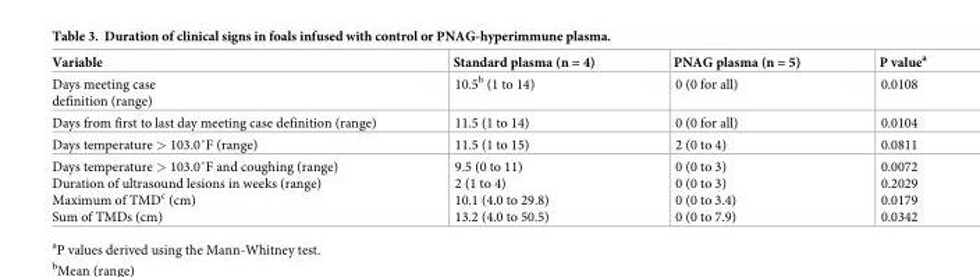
<table><thead><tr><td>Variable</td><td>Standard plasma (n = 4)</td><td>PNAG plasma (n = 5)</td><td>P value<sup>a</sup></td></tr></thead><tbody><tr><td>Days meeting case definition (range)</td><td>10.5<sup>b</sup> (1 to 14)</td><td>0 (0 for all)</td><td>0.0108</td></tr><tr><td>Days from first to last day meeting case definition (range)</td><td>11.5 (1 to 14)</td><td>0 (0 for all)</td><td>0.0104</td></tr><tr><td>Days temperature &gt; 103.0˚F (range)</td><td>11.5 (1 to 15)</td><td>2 (0 to 4)</td><td>0.0811</td></tr><tr><td>Days temperature &gt; 103.0˚F and coughing (range) Duration of ultrasound lesions in weeks (range) Maximum of TMDc (cm) Sum of TMDs (cm)</td><td>9.5 (0 to 11) 2 (1 to 4) 10.1 (4.0 to 29.8) 13.2 (4.0 to 50.5)</td><td>0 (0 to 3) 0 (0 to 3) 0 (0 to 3.4) 0 (0 to 7.9)</td><td>0.0072 0.2029 0.0179 0.0342</td></tr></tbody></table>